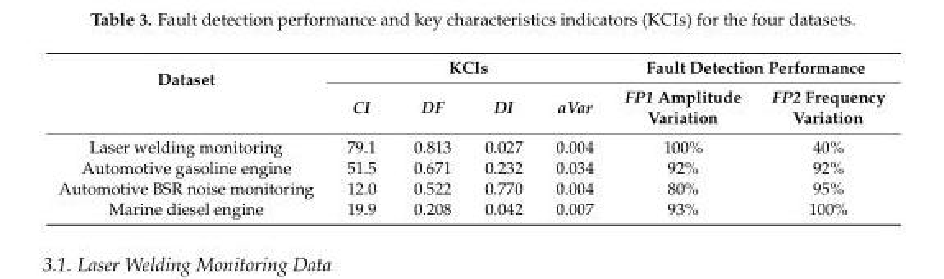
<table><thead><tr><td rowspan="2">Dataset</td><td colspan="4">KCIs</td><td colspan="2">Fault Detection Performance</td></tr><tr><td>CI</td><td>DF</td><td>DI</td><td>aVar</td><td>FP1 Amplitude Variation</td><td>FP2 Frequency Variation</td></tr></thead><tbody><tr><td>Laser welding monitoring</td><td>79.1</td><td>0.813</td><td>0.027</td><td>0.004</td><td>100%</td><td>40%</td></tr><tr><td>Automotive gasoline engine</td><td>51.5</td><td>0.671</td><td>0.232</td><td>0.034</td><td>92%</td><td>92%</td></tr><tr><td>Automotive BSR noise monitoring</td><td>12.0</td><td>0.522</td><td>0.770</td><td>0.004</td><td>80%</td><td>95%</td></tr><tr><td>Marine diesel engine</td><td>19.9</td><td>0.208</td><td>0.042</td><td>0.007</td><td>93%</td><td>100%</td></tr></tbody></table>